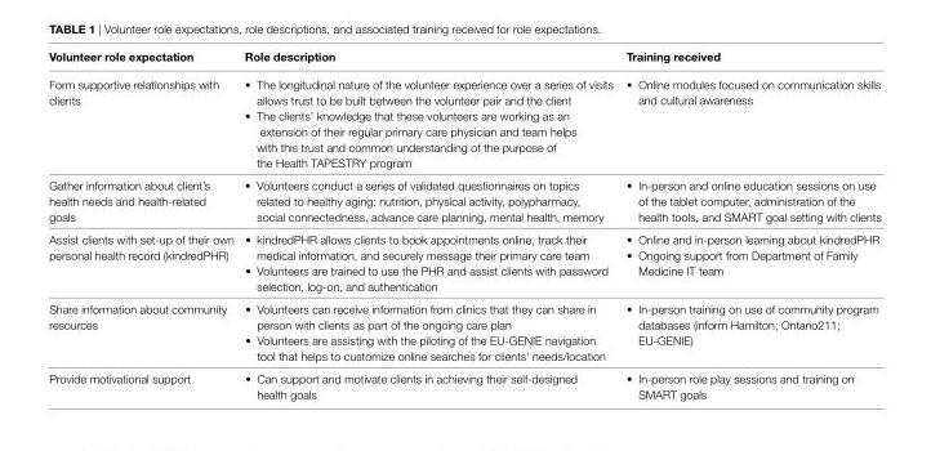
<table><thead><tr><td>Volunteer role expectation</td><td>Role description</td><td>training received</td></tr></thead><tbody><tr><td>Form supportive relationships with clients</td><td>• The longitudinal nature of the volunteer experience over a series of visits allows trust to be built between the volunteer pair and the client • The clients’ knowledge that these volunteers are working as an extension of their regular primary care physician and team helps with this trust and common understanding of the purpose of the Health TAPESTRY program</td><td>• Online modules focused on communication skills and cultural awareness</td></tr><tr><td>Gather information about client’s health needs and health-related goals</td><td>• Volunteers conduct a series of validated questionnaires on topics related to healthy aging: nutrition, physical activity, polypharmacy, social connectedness, advance care planning, mental health, memory</td><td>• In-person and online education sessions on use of the tablet computer, administration of the health tools, and SMART goal setting with clients</td></tr><tr><td>Assist clients with set-up of their own personal health record (kindredPHR)</td><td>• kindredPHR allows clients to book appointments online, track their medical information, and securely message their primary care team • Volunteers are trained to use the PHR and assist clients with password selection, log-on, and authentication</td><td>• Online and in-person learning about kindredPHR • Ongoing support from Department of Family Medicine IT team</td></tr><tr><td>Share information about community resources</td><td>• Volunteers can receive information from clinics that they can share in person with clients as part of the ongoing care plan • Volunteers are assisting with the piloting of the EU-GENIE navigation tool that helps to customize online searches for clients’ needs/location</td><td>• In-person training on use of community program databases (inform Hamilton; Ontario211; EU-GENIE)</td></tr><tr><td>Provide motivational support</td><td>• Can support and motivate clients in achieving their self-designed health goals</td><td>• In-person role play sessions and training on SMART goals</td></tr></tbody></table>